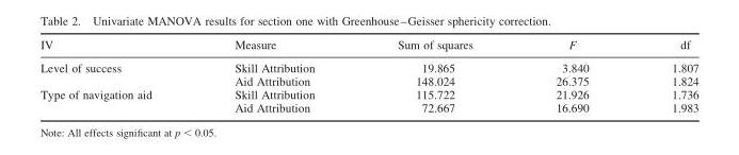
<table><thead><tr><td>IV</td><td>Measure</td><td>Sum of squares</td><td>F</td><td>df</td></tr></thead><tbody><tr><td rowspan="2">Level of success</td><td>Skill Attribution</td><td>19.865</td><td>3.840</td><td>1.807</td></tr><tr><td>Aid Attribution</td><td>148.024</td><td>26.375</td><td>1.824</td></tr><tr><td rowspan="2">Type of navigation aid</td><td>Skill Attribution</td><td>115.722</td><td>21.926</td><td>1.736</td></tr><tr><td>Aid Attribution</td><td>72.667</td><td>16.690</td><td>1.983</td></tr></tbody></table>